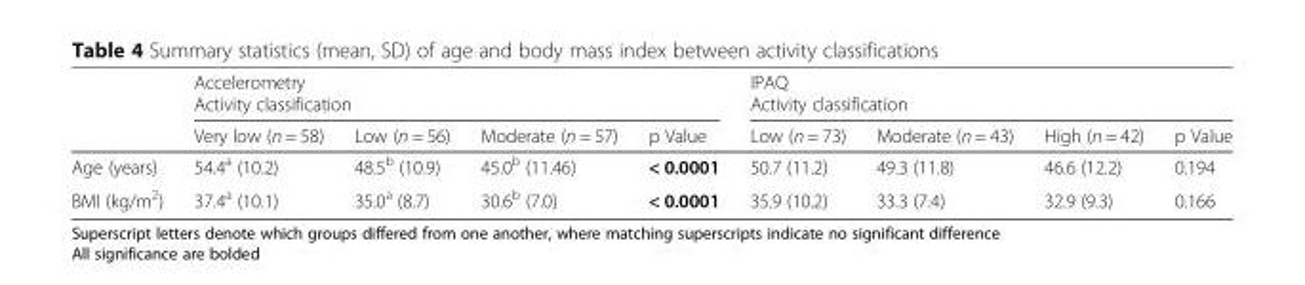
<table><thead><tr><td rowspan="2"></td><td colspan="4">Accelerometry Activity classification</td><td colspan="4">IPAQ Activity classification</td></tr><tr><td>Very low (n = 58)</td><td>Low (n = 56)</td><td>Moderate (n = 57)</td><td>p Value</td><td>Low (n = 73)</td><td>Moderate (n = 43)</td><td>High (n = 42)</td><td>p Value</td></tr></thead><tbody><tr><td>Age (years)</td><td>54.4<sup>a</sup> (10.2)</td><td>48.5<sup>b</sup> (10.9)</td><td>45.0<sup>b</sup> (11.46)</td><td>&lt; 0.0001</td><td>50.7 (11.2)</td><td>49.3 (11.8)</td><td>46.6 (12.2)</td><td>0.194</td></tr><tr><td>BMI (kg/m<sup>2</sup>)</td><td>37.4<sup>a</sup> (10.1)</td><td>35.0<sup>a</sup> (8.7)</td><td>30.6<sup>b</sup> (7.0)</td><td>&lt; 0.0001</td><td>35.9 (10.2)</td><td>33.3 (7.4)</td><td>32.9 (9.3)</td><td>0.166</td></tr></tbody></table>